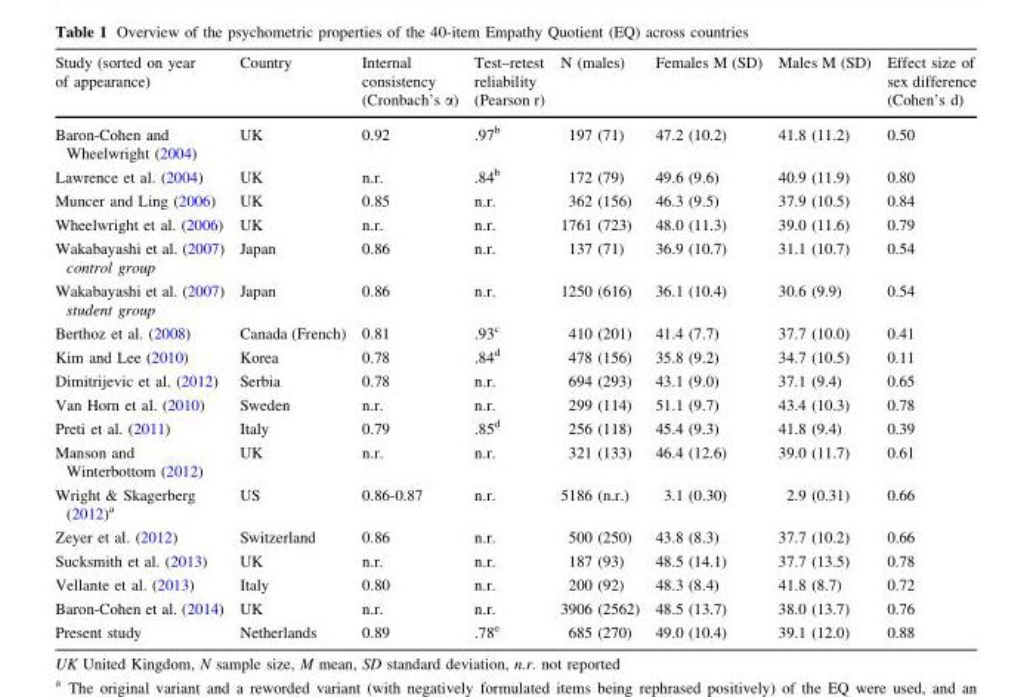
<table><thead><tr><td>Study (sorted on year of appearance)</td><td>Country</td><td>Internal consistency (Cronbach’s α)</td><td>Test–retest reliability (Pearson r)</td><td>N (males)</td><td>Females M (SD)</td><td>Males M (SD)</td><td>Effect size of sex difference (Cohen’s d)</td></tr></thead><tbody><tr><td>Baron-Cohen and Wheelwright (2004)</td><td>UK</td><td>0.92</td><td>.97<sup>b</sup></td><td>197 (71)</td><td>47.2 (10.2)</td><td>41.8 (11.2)</td><td>0.50</td></tr><tr><td>Lawrence et al. (2004)</td><td>UK</td><td>n.r.</td><td>.84<sup>b</sup></td><td>172 (79)</td><td>49.6 (9.6)</td><td>40.9 (11.9)</td><td>0.80</td></tr><tr><td>Muncer and Ling (2006)</td><td>UK</td><td>0.85</td><td>n.r.</td><td>362 (156)</td><td>46.3 (9.5)</td><td>37.9 (10.5)</td><td>0.84</td></tr><tr><td>Wheelwright et al. (2006)</td><td>UK</td><td>n.r.</td><td>n.r.</td><td>1761 (723)</td><td>48.0 (11.3)</td><td>39.0 (11.6)</td><td>0.79</td></tr><tr><td>Wakabayashi et al. (2007) control group</td><td>Japan</td><td>0.86</td><td>n.r.</td><td>137 (71)</td><td>36.9 (10.7)</td><td>31.1 (10.7)</td><td>0.54</td></tr><tr><td>Wakabayashi et al. (2007) student group</td><td>Japan</td><td>0.86</td><td>n.r.</td><td>1250 (616)</td><td>36.1 (10.4)</td><td>30.6 (9.9)</td><td>0.54</td></tr><tr><td>Berthoz et al. (2008)</td><td>Canada (French)</td><td>0.81</td><td>.93<sup>c</sup></td><td>410 (201)</td><td>41.4 (7.7)</td><td>37.7 (10.0)</td><td>0.41</td></tr><tr><td>Kim and Lee (2010)</td><td>Korea</td><td>0.78</td><td>.84<sup>d</sup></td><td>478 (156)</td><td>35.8 (9.2)</td><td>34.7 (10.5)</td><td>0.11</td></tr><tr><td>Dimitrijevic et al. (2012)</td><td>Serbia</td><td>0.78</td><td>n.r.</td><td>694 (293)</td><td>43.1 (9.0)</td><td>37.1 (9.4)</td><td>0.65</td></tr><tr><td>Van Horn et al. (2010)</td><td>Sweden</td><td>n.r.</td><td>n.r.</td><td>299 (114)</td><td>51.1 (9.7)</td><td>43.4 (10.3)</td><td>0.78</td></tr><tr><td>Preti et al. (2011)</td><td>Italy</td><td>0.79</td><td>.85<sup>d</sup></td><td>256 (118)</td><td>45.4 (9.3)</td><td>41.8 (9.4)</td><td>0.39</td></tr><tr><td>Manson and Winterbottom (2012)</td><td>UK</td><td>n.r.</td><td>n.r.</td><td>321 (133)</td><td>46.4 (12.6)</td><td>39.0 (11.7)</td><td>0.61</td></tr><tr><td>Wright &amp; Skagerberg (2012)<sup>a</sup></td><td>US</td><td>0.86-0.87</td><td>n.r.</td><td>5186 (n.r.)</td><td>3.1 (0.30)</td><td>2.9 (0.31)</td><td>0.66</td></tr><tr><td>Zeyer et al. (2012)</td><td>Switzerland</td><td>0.86</td><td>n.r.</td><td>500 (250)</td><td>43.8 (8.3)</td><td>37.7 (10.2)</td><td>0.66</td></tr><tr><td>Sucksmith et al. (2013)</td><td>UK</td><td>n.r.</td><td>n.r.</td><td>187 (93)</td><td>48.5 (14.1)</td><td>37.7 (13.5)</td><td>0.78</td></tr><tr><td>Vellante et al. (2013)</td><td>Italy</td><td>0.80</td><td>n.r.</td><td>200 (92)</td><td>48.3 (8.4)</td><td>41.8 (8.7)</td><td>0.72</td></tr><tr><td>Baron-Cohen et al. (2014)</td><td>UK</td><td>n.r.</td><td>n.r.</td><td>3906 (2562)</td><td>48.5 (13.7)</td><td>38.0 (13.7)</td><td>0.76</td></tr><tr><td>Present study</td><td>Netherlands</td><td>0.89</td><td>.78<sup>e</sup></td><td>685 (270)</td><td>49.0 (10.4)</td><td>39.1 (12.0)</td><td>0.88</td></tr></tbody></table>